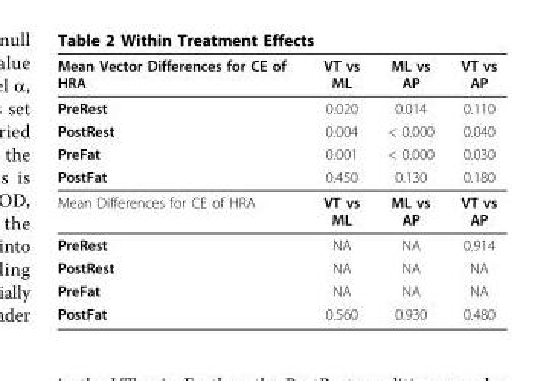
<table><thead><tr><td>Mean Vector Differences for CE of HRA</td><td>VT vs ML</td><td>ML vs AP</td><td>VT vs AP</td></tr></thead><tbody><tr><td>PreRest</td><td>0.020</td><td>0.014</td><td>0.110</td></tr><tr><td>PostRest</td><td>0.004</td><td>&lt; 0.000</td><td>0.040</td></tr><tr><td>PreFat</td><td>0.001</td><td>&lt; 0.000</td><td>0.030</td></tr><tr><td>PostFat</td><td>0.450</td><td>0.130</td><td>0.180</td></tr><tr><td>Mean Differences for CE of HRA</td><td>VT vs ML</td><td>ML vs AP</td><td>VT vs AP</td></tr><tr><td>PreRest</td><td>NA</td><td>NA</td><td>0.914</td></tr><tr><td>PostRest</td><td>NA</td><td>NA</td><td>NA</td></tr><tr><td>PreFat</td><td>NA</td><td>NA</td><td>NA</td></tr><tr><td>PostFat</td><td>0.560</td><td>0.930</td><td>0.480</td></tr></tbody></table>